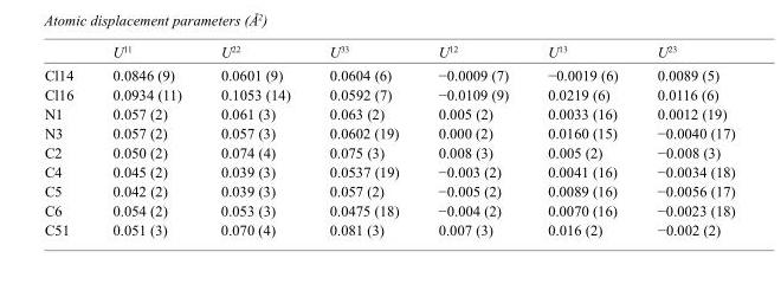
<table><thead><tr><td></td><td>U<sup>11</sup></td><td>U<sup>22</sup></td><td>U<sup>33</sup></td><td>U<sup>12</sup></td><td>U<sup>13</sup></td><td>U<sup>23</sup></td></tr></thead><tbody><tr><td>Cl14</td><td>0.0846 (9)</td><td>0.0601 (9)</td><td>0.0604 (6)</td><td>−0.0009 (7)</td><td>−0.0019 (6)</td><td>0.0089 (5)</td></tr><tr><td>Cl16</td><td>0.0934 (11)</td><td>0.1053 (14)</td><td>0.0592 (7)</td><td>−0.0109 (9)</td><td>0.0219 (6)</td><td>0.0116 (6)</td></tr><tr><td>N1</td><td>0.057 (2)</td><td>0.061 (3)</td><td>0.063 (2)</td><td>0.005 (2)</td><td>0.0033 (16)</td><td>0.0012 (19)</td></tr><tr><td>N3</td><td>0.057 (2)</td><td>0.057 (3)</td><td>0.0602 (19)</td><td>0.000 (2)</td><td>0.0160 (15)</td><td>−0.0040 (17)</td></tr><tr><td>C2</td><td>0.050 (2)</td><td>0.074 (4)</td><td>0.075 (3)</td><td>0.008 (3)</td><td>0.005 (2)</td><td>−0.008 (3)</td></tr><tr><td>C4</td><td>0.045 (2)</td><td>0.039 (3)</td><td>0.0537 (19)</td><td>−0.003 (2)</td><td>0.0041 (16)</td><td>−0.0034 (18)</td></tr><tr><td>C5</td><td>0.042 (2)</td><td>0.039 (3)</td><td>0.057 (2)</td><td>−0.005 (2)</td><td>0.0089 (16)</td><td>−0.0056 (17)</td></tr><tr><td>C6</td><td>0.054 (2)</td><td>0.053 (3)</td><td>0.0475 (18)</td><td>−0.004 (2)</td><td>0.0070 (16)</td><td>−0.0023 (18)</td></tr><tr><td>C51</td><td>0.051 (3)</td><td>0.070 (4)</td><td>0.081 (3)</td><td>0.007 (3)</td><td>0.016 (2)</td><td>−0.002 (2)</td></tr></tbody></table>